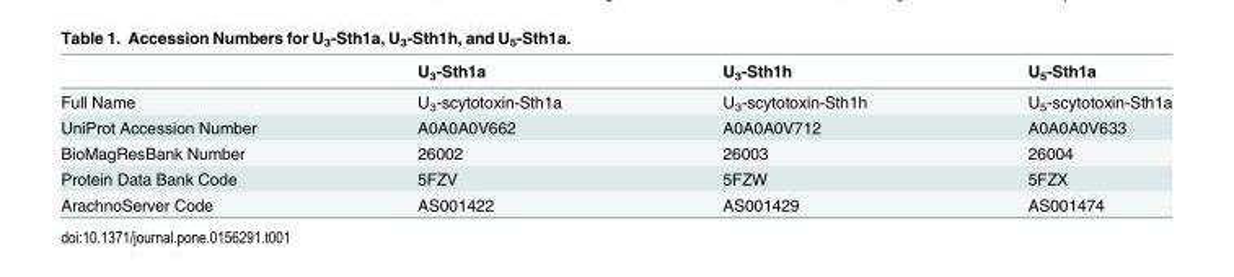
<table><thead><tr><td></td><td>U<sub>3</sub>-Sth1a</td><td>U<sub>3</sub>-Sth1h</td><td>U<sub>5</sub>-Sth1a</td></tr></thead><tbody><tr><td>Full Name</td><td>U<sub>3</sub>-scytotoxin-Sth1a</td><td>U<sub>3</sub>-scytotoxin-Sth1h</td><td>U<sub>5</sub>-scytotoxin-Sth1a</td></tr><tr><td>UniProt Accession Number</td><td>A0A0A0V662</td><td>A0A0A0V712</td><td>A0A0A0V633</td></tr><tr><td>BioMagResBank Number</td><td>26002</td><td>26003</td><td>26004</td></tr><tr><td>Protein Data Bank Code</td><td>5FZV</td><td>5FZW</td><td>5FZX</td></tr><tr><td>ArachnoServer Code</td><td>AS001422</td><td>AS001429</td><td>AS001474</td></tr></tbody></table>